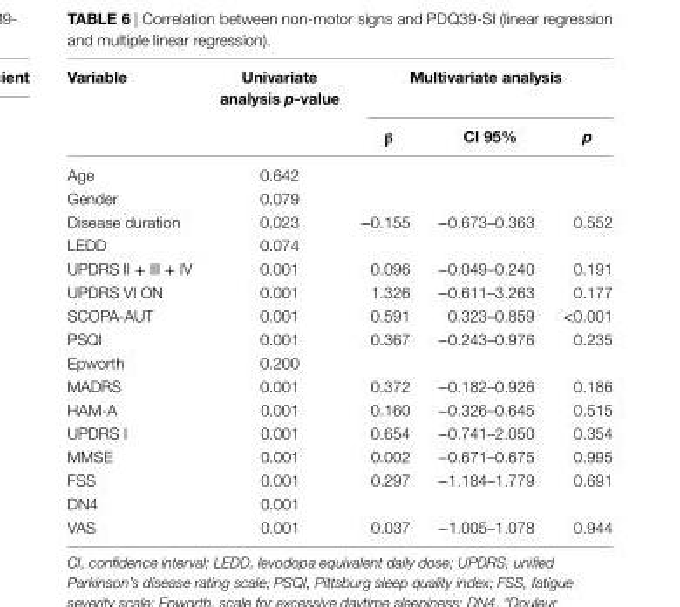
<table><thead><tr><td rowspan="2">Variable</td><td rowspan="2">Univariate analysis p-value</td><td colspan="3">Multivariate analysis</td></tr><tr><td>β</td><td>ci 95%</td><td>p</td></tr></thead><tbody><tr><td>Age</td><td>0.642</td><td></td><td></td><td></td></tr><tr><td>Gender</td><td>0.079</td><td></td><td></td><td></td></tr><tr><td>Disease duration</td><td>0.023</td><td>−0.155</td><td>−0.673–0.363</td><td>0.552</td></tr><tr><td>LEDD</td><td>0.074</td><td></td><td></td><td></td></tr><tr><td>UPDRS II + III + IV</td><td>0.001</td><td>0.096</td><td>−0.049–0.240</td><td>0.191</td></tr><tr><td>UPDRS VI ON</td><td>0.001</td><td>1.326</td><td>−0.611–3.263</td><td>0.177</td></tr><tr><td>SCOPA-AUT</td><td>0.001</td><td>0.591</td><td>0.323–0.859</td><td>&lt;0.001</td></tr><tr><td>PSQI</td><td>0.001</td><td>0.367</td><td>−0.243–0.976</td><td>0.235</td></tr><tr><td>Epworth</td><td>0.200</td><td></td><td></td><td></td></tr><tr><td>MADRS</td><td>0.001</td><td>0.372</td><td>−0.182–0.926</td><td>0.186</td></tr><tr><td>HAM-A</td><td>0.001</td><td>0.160</td><td>−0.326–0.645</td><td>0.515</td></tr><tr><td>UPDRS I</td><td>0.001</td><td>0.654</td><td>−0.741–2.050</td><td>0.354</td></tr><tr><td>MMSE</td><td>0.001</td><td>0.002</td><td>−0.671–0.675</td><td>0.995</td></tr><tr><td>FSS</td><td>0.001</td><td>0.297</td><td>−1.184–1.779</td><td>0.691</td></tr><tr><td>DN4</td><td>0.001</td><td></td><td></td><td></td></tr><tr><td>VAS</td><td>0.001</td><td>0.037</td><td>−1.005–1.078</td><td>0.944</td></tr></tbody></table>